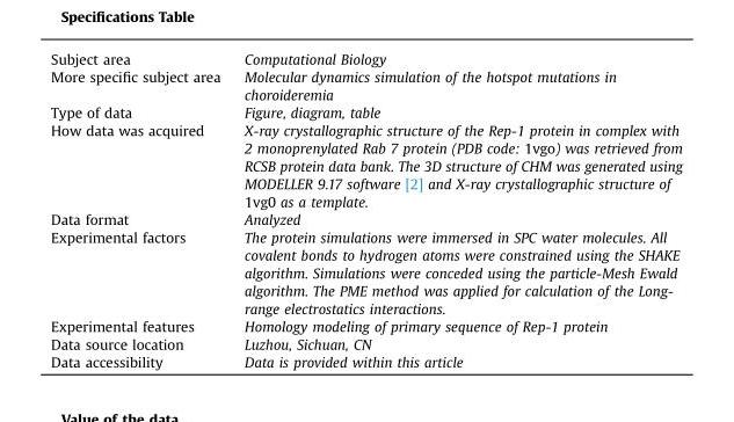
<table><tbody><tr><td>Subject area</td><td>Computational Biology</td></tr><tr><td>More specific subject area</td><td>Molecular dynamics simulation of the hotspot mutations in choroideremia</td></tr><tr><td>Type of data</td><td>Figure, diagram, table</td></tr><tr><td>How data was acquired</td><td>X-ray crystallographic structure of the Rep-1 protein in complex with 2 monoprenylated Rab 7 protein (PDB code: 1vgo) was retrieved from RCSB protein data bank. The 3D structure of CHM was generated using MODELLER 9.17 software [2] and X-ray crystallographic structure of 1vg0 as a template.</td></tr><tr><td>Data format</td><td>Analyzed</td></tr><tr><td>Experimental factors</td><td>The protein simulations were immersed in SPC water molecules. All covalent bonds to hydrogen atoms were constrained using the SHAKE algorithm. Simulations were conceded using the particle-Mesh Ewald algorithm. The PME method was applied for calculation of the Long- range electrostatics interactions.</td></tr><tr><td>Experimental features</td><td>Homology modeling of primary sequence of Rep-1 protein</td></tr><tr><td>Data source location</td><td>Luzhou, Sichuan, CN</td></tr><tr><td>Data accessibility</td><td>Data is provided within this article</td></tr></tbody></table>